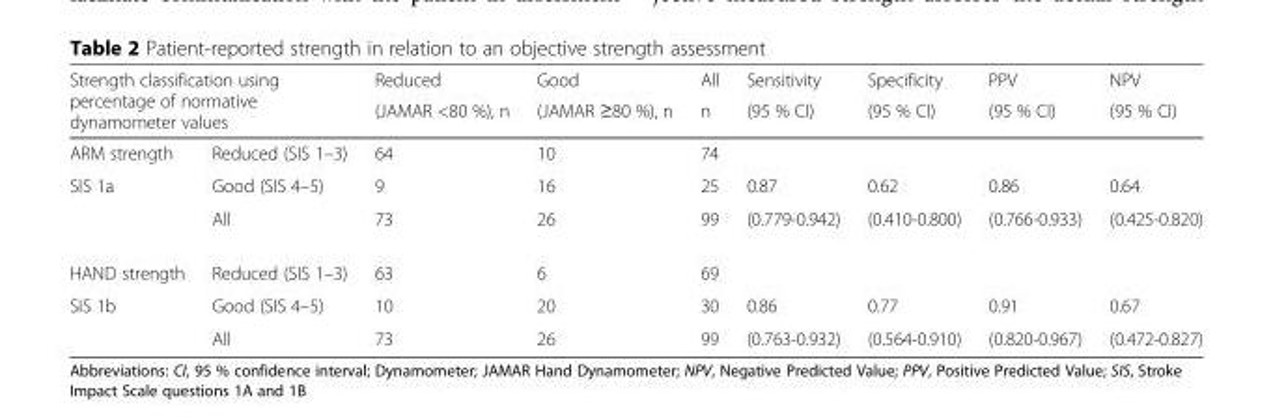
<table><thead><tr><td rowspan="2" colspan="2">Strength classification using percentage of normative dynamometer values</td><td rowspan="3">Reduced (JAMAR &lt;80 %), n 64</td><td rowspan="3">Good (JAMAR ≥80 %), n 10</td><td rowspan="3">All n 74</td><td rowspan="3">Sensitivity (95 % CI)</td><td rowspan="3">Specificity (95 % CI)</td><td rowspan="3">PPV (95 % CI)</td><td rowspan="3">NPV (95 % CI)</td></tr><tr></tr><tr><td>ARM strength</td><td>Reduced (SIS 1–3)</td></tr></thead><tbody><tr><td rowspan="2">SIS 1a</td><td>Good (SIS 4–5)</td><td>9</td><td>16</td><td>25</td><td>0.87</td><td>0.62</td><td>0.86</td><td>0.64</td></tr><tr><td>All</td><td>73</td><td>26</td><td>99</td><td>(0.779-0.942)</td><td>(0.410-0.800)</td><td>(0.766-0.933)</td><td>(0.425-0.820)</td></tr><tr><td>HAND strength</td><td>Reduced (SIS 1–3)</td><td>63</td><td>6</td><td>69</td><td></td><td></td><td></td><td></td></tr><tr><td rowspan="2">SIS 1b</td><td>Good (SIS 4–5)</td><td>10</td><td>20</td><td>30</td><td>0.86</td><td>0.77</td><td>0.91</td><td>0.67</td></tr><tr><td>All</td><td>73</td><td>26</td><td>99</td><td>(0.763-0.932)</td><td>(0.564-0.910)</td><td>(0.820-0.967)</td><td>(0.472-0.827)</td></tr></tbody></table>